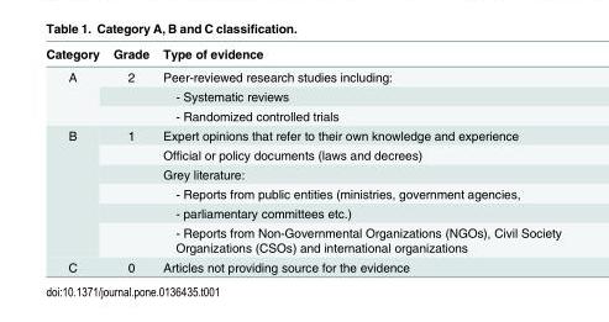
<table><thead><tr><td>Category</td><td>Grade</td><td>Type of evidence</td></tr></thead><tbody><tr><td rowspan="3">A</td><td>2</td><td>Peer-reviewed research studies including:</td></tr><tr><td></td><td>- Systematic reviews</td></tr><tr><td></td><td>- Randomized controlled trials</td></tr><tr><td rowspan="6">B</td><td>1</td><td>Expert opinions that refer to their own knowledge and experience</td></tr><tr><td></td><td>Official or policy documents (laws and decrees)</td></tr><tr><td></td><td>Grey literature:</td></tr><tr><td></td><td>- Reports from public entities (ministries, government agencies,</td></tr><tr><td></td><td>- parliamentary committees etc.)</td></tr><tr><td></td><td>- Reports from Non-Governmental Organizations (NGOs), Civil Society Organizations (CSOs) and international organizations</td></tr><tr><td>C</td><td>0</td><td>Articles not providing source for the evidence</td></tr></tbody></table>